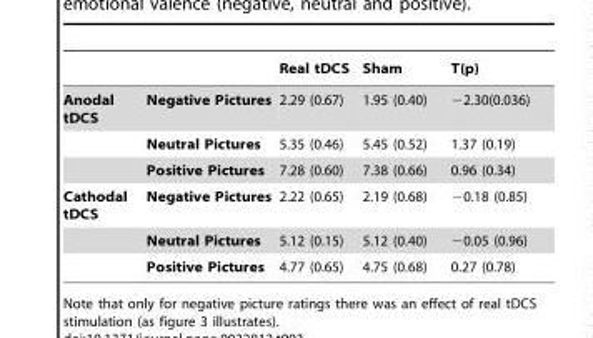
<table><thead><tr><td></td><td></td><td>Real tDCS</td><td>Sham</td><td>T(p)</td></tr></thead><tbody><tr><td rowspan="3">Anodal tDCS</td><td>Negative Pictures</td><td>2.29 (0.67)</td><td>1.95 (0.40)</td><td>−2.30(0.036)</td></tr><tr><td>Neutral Pictures</td><td>5.35 (0.46)</td><td>5.45 (0.52)</td><td>1.37 (0.19)</td></tr><tr><td>Positive Pictures</td><td>7.28 (0.60)</td><td>7.38 (0.66)</td><td>0.96 (0.34)</td></tr><tr><td rowspan="3">Cathodal tDCS</td><td>Negative Pictures</td><td>2.22 (0.65)</td><td>2.19 (0.68)</td><td>−0.18 (0.85)</td></tr><tr><td>Neutral Pictures</td><td>5.12 (0.15)</td><td>5.12 (0.40)</td><td>−0.05 (0.96)</td></tr><tr><td>Positive Pictures</td><td>4.77 (0.65)</td><td>4.75 (0.68)</td><td>0.27 (0.78)</td></tr></tbody></table>